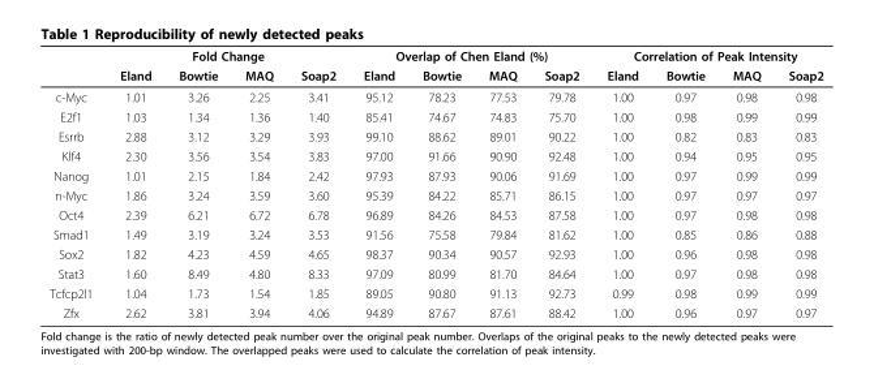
<table><thead><tr><td rowspan="2"></td><td colspan="4">Fold Change</td><td colspan="4">Overlap of Chen Eland (%)</td><td colspan="4">Correlation of Peak Intensity</td></tr><tr><td>Eland</td><td>Bowtie</td><td>MAQ</td><td>Soap2</td><td>Eland</td><td>Bowtie</td><td>MAQ</td><td>Soap2</td><td>Eland</td><td>Bowtie</td><td>MAQ</td><td>Soap2</td></tr></thead><tbody><tr><td>c-Myc</td><td>1.01</td><td>3.26</td><td>2.25</td><td>3.41</td><td>95.12</td><td>78.23</td><td>77.53</td><td>79.78</td><td>1.00</td><td>0.97</td><td>0.98</td><td>0.98</td></tr><tr><td>E2f1</td><td>1.03</td><td>1.34</td><td>1.36</td><td>1.40</td><td>85.41</td><td>74.67</td><td>74.83</td><td>75.70</td><td>1.00</td><td>0.98</td><td>0.99</td><td>0.99</td></tr><tr><td>Esrrb</td><td>2.88</td><td>3.12</td><td>3.29</td><td>3.93</td><td>99.10</td><td>88.62</td><td>89.01</td><td>90.22</td><td>1.00</td><td>0.82</td><td>0.83</td><td>0.83</td></tr><tr><td>Klf4</td><td>2.30</td><td>3.56</td><td>3.54</td><td>3.83</td><td>97.00</td><td>91.66</td><td>90.90</td><td>92.48</td><td>1.00</td><td>0.94</td><td>0.95</td><td>0.95</td></tr><tr><td>Nanog</td><td>1.01</td><td>2.15</td><td>1.84</td><td>2.42</td><td>97.93</td><td>87.93</td><td>90.06</td><td>91.69</td><td>1.00</td><td>0.97</td><td>0.99</td><td>0.99</td></tr><tr><td>n-Myc</td><td>1.86</td><td>3.24</td><td>3.59</td><td>3.60</td><td>95.39</td><td>84.22</td><td>85.71</td><td>86.15</td><td>1.00</td><td>0.97</td><td>0.97</td><td>0.97</td></tr><tr><td>Oct4</td><td>2.39</td><td>6.21</td><td>6.72</td><td>6.78</td><td>96.89</td><td>84.26</td><td>84.53</td><td>87.58</td><td>1.00</td><td>0.97</td><td>0.98</td><td>0.98</td></tr><tr><td>Smad1</td><td>1.49</td><td>3.19</td><td>3.24</td><td>3.53</td><td>91.56</td><td>75.58</td><td>79.84</td><td>81.62</td><td>1.00</td><td>0.85</td><td>0.86</td><td>0.88</td></tr><tr><td>Sox2</td><td>1.82</td><td>4.23</td><td>4.59</td><td>4.65</td><td>98.37</td><td>90.34</td><td>90.57</td><td>92.93</td><td>1.00</td><td>0.96</td><td>0.98</td><td>0.98</td></tr><tr><td>Stat3</td><td>1.60</td><td>8.49</td><td>4.80</td><td>8.33</td><td>97.09</td><td>80.99</td><td>81.70</td><td>84.64</td><td>1.00</td><td>0.97</td><td>0.98</td><td>0.98</td></tr><tr><td>Tcfcp2l1</td><td>1.04</td><td>1.73</td><td>1.54</td><td>1.85</td><td>89.05</td><td>90.80</td><td>91.13</td><td>92.73</td><td>0.99</td><td>0.98</td><td>0.99</td><td>0.99</td></tr><tr><td>Zfx</td><td>2.62</td><td>3.81</td><td>3.94</td><td>4.06</td><td>94.89</td><td>87.67</td><td>87.61</td><td>88.42</td><td>1.00</td><td>0.96</td><td>0.97</td><td>0.97</td></tr></tbody></table>